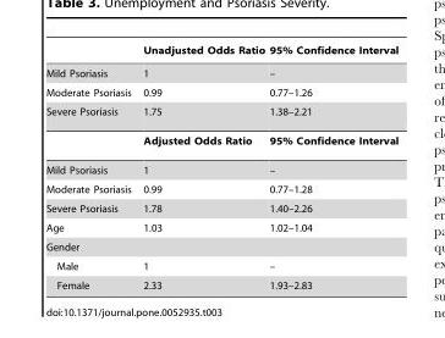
<table><thead><tr><td></td><td>Unadjusted Odds Ratio</td><td>95% Confidence Interval</td></tr></thead><tbody><tr><td>Mild Psoriasis</td><td>1</td><td>–</td></tr><tr><td>Moderate Psoriasis</td><td>0.99</td><td>0.77–1.26</td></tr><tr><td rowspan="2">Severe Psoriasis</td><td>1.75</td><td>1.38–2.21</td></tr><tr><td>Adjusted Odds Ratio</td><td>95% Confidence Interval</td></tr><tr><td>Mild Psoriasis</td><td>1</td><td>–</td></tr><tr><td>Moderate Psoriasis</td><td>0.99</td><td>0.77–1.28</td></tr><tr><td>Severe Psoriasis</td><td>1.78</td><td>1.40–2.26</td></tr><tr><td>Age</td><td>1.03</td><td>1.02–1.04</td></tr><tr><td colspan="3">Gender</td></tr><tr><td>Male</td><td>1</td><td>–</td></tr><tr><td>Female</td><td>2.33</td><td>1.93–2.83</td></tr></tbody></table>